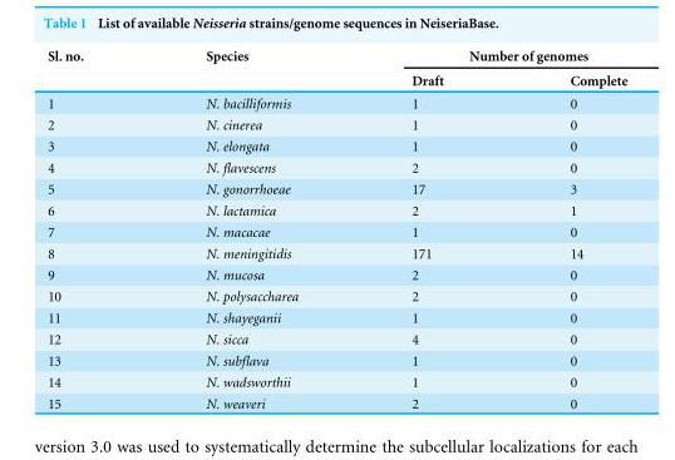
<table><thead><tr><td rowspan="2">Sl. no.</td><td rowspan="2">Species</td><td colspan="2">Number of genomes</td></tr><tr><td>Draft</td><td>Complete</td></tr></thead><tbody><tr><td>1</td><td>N. bacilliformis</td><td>1</td><td>0</td></tr><tr><td>2</td><td>N. cinerea</td><td>1</td><td>0</td></tr><tr><td>3</td><td>N. elongata</td><td>1</td><td>0</td></tr><tr><td>4</td><td>N. flavescens</td><td>2</td><td>0</td></tr><tr><td>5</td><td>N. gonorrhoeae</td><td>17</td><td>3</td></tr><tr><td>6</td><td>N. lactamica</td><td>2</td><td>1</td></tr><tr><td>7</td><td>N. macacae</td><td>1</td><td>0</td></tr><tr><td>8</td><td>N. meningitidis</td><td>171</td><td>14</td></tr><tr><td>9</td><td>N. mucosa</td><td>2</td><td>0</td></tr><tr><td>10</td><td>N. polysaccharea</td><td>2</td><td>0</td></tr><tr><td>11</td><td>N. shayeganii</td><td>1</td><td>0</td></tr><tr><td>12</td><td>N. sicca</td><td>4</td><td>0</td></tr><tr><td>13</td><td>N. subflava</td><td>1</td><td>0</td></tr><tr><td>14</td><td>N. wadsworthii</td><td>1</td><td>0</td></tr><tr><td>15</td><td>N. weaveri</td><td>2</td><td>0</td></tr></tbody></table>